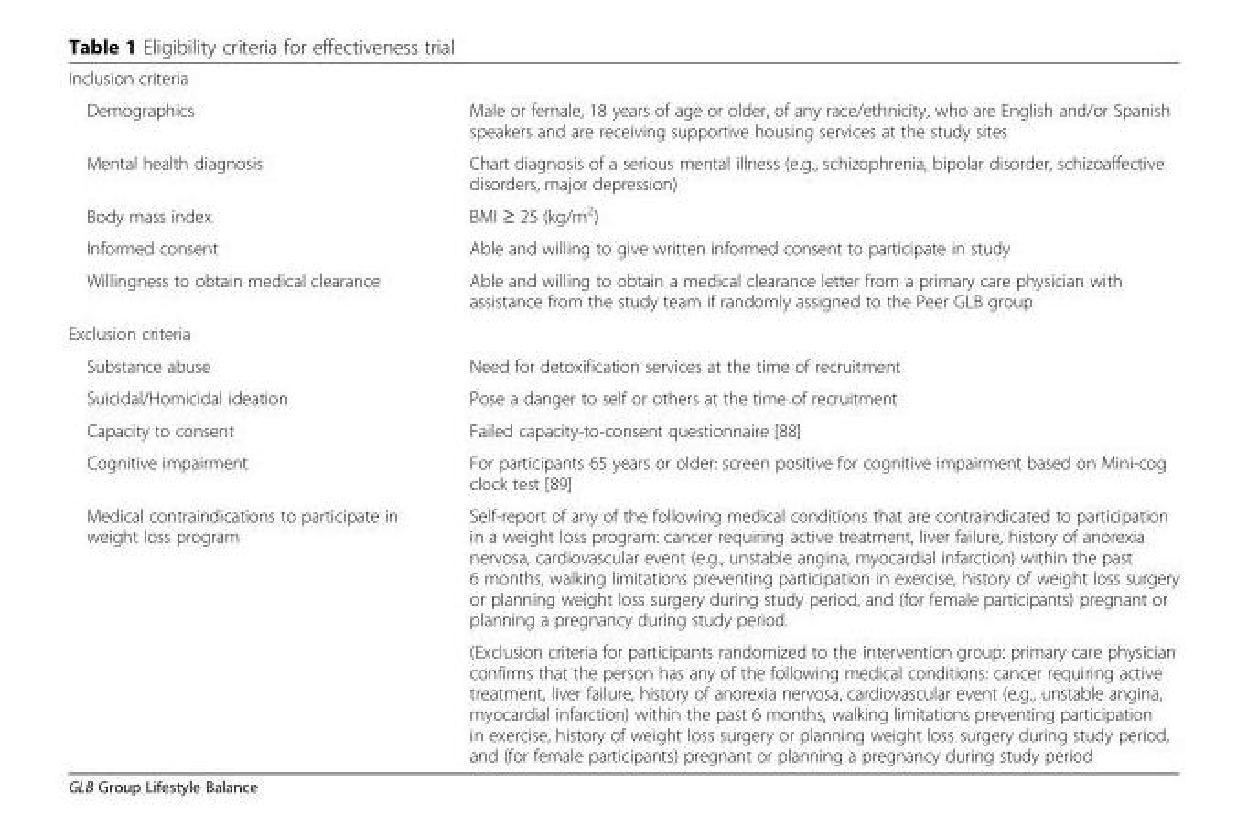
<table><tbody><tr><td colspan="2">Inclusion criteria</td></tr><tr><td>Demographics</td><td>Male or female, 18 years of age or older, of any race/ethnicity, who are English and/or Spanish speakers and are receiving supportive housing services at the study sites</td></tr><tr><td>Mental health diagnosis</td><td>Chart diagnosis of a serious mental illness (e.g., schizophrenia, bipolar disorder, schizoaffective disorders, major depression)</td></tr><tr><td>Body mass index</td><td>BMI ≥ 25 (kg/m<sup>2</sup>)</td></tr><tr><td>Informed consent</td><td>Able and willing to give written informed consent to participate in study</td></tr><tr><td>Willingness to obtain medical clearance</td><td>Able and willing to obtain a medical clearance letter from a primary care physician with assistance from the study team if randomly assigned to the Peer GLB group</td></tr><tr><td colspan="2">Exclusion criteria</td></tr><tr><td>Substance abuse</td><td>Need for detoxification services at the time of recruitment</td></tr><tr><td>Suicidal/Homicidal ideation</td><td>Pose a danger to self or others at the time of recruitment</td></tr><tr><td>Capacity to consent</td><td>Failed capacity-to-consent questionnaire [88]</td></tr><tr><td>Cognitive impairment</td><td>For participants 65 years or older: screen positive for cognitive impairment based on Mini-cog clock test [89]</td></tr><tr><td rowspan="2">Medical contraindications to participate in weight loss program</td><td>Self-report of any of the following medical conditions that are contraindicated to participation in a weight loss program: cancer requiring active treatment, liver failure, history of anorexia nervosa, cardiovascular event (e.g., unstable angina, myocardial infarction) within the past 6 months, walking limitations preventing participation in exercise, history of weight loss surgery or planning weight loss surgery during study period, and (for female participants) pregnant or planning a pregnancy during study period.</td></tr><tr><td>(Exclusion criteria for participants randomized to the intervention group: primary care physician confirms that the person has any of the following medical conditions: cancer requiring active treatment, liver failure, history of anorexia nervosa, cardiovascular event (e.g., unstable angina, myocardial infarction) within the past 6 months, walking limitations preventing participation in exercise, history of weight loss surgery or planning weight loss surgery during study period, and (for female participants) pregnant or planning a pregnancy during study period</td></tr></tbody></table>